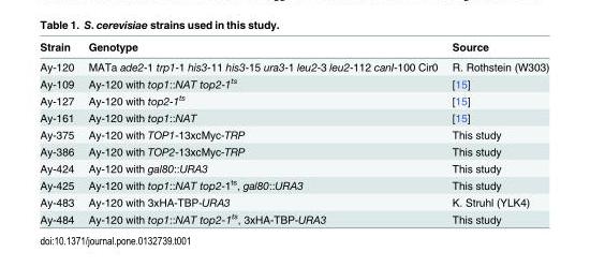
<table><thead><tr><td>Strain</td><td>Genotype</td><td>Source</td></tr></thead><tbody><tr><td>Ay-120</td><td>MATa ade2-1 trp1-1 his3-11 his3-15 ura3-1 leu2-3 leu2-112 canI-100 Cir0</td><td>R. Rothstein (W303)</td></tr><tr><td>Ay-109</td><td>Ay-120 with top1::NAT top2-1<sup>ts</sup></td><td>[15]</td></tr><tr><td>Ay-127</td><td>Ay-120 with top2-1<sup>ts</sup></td><td>[15]</td></tr><tr><td>Ay-161</td><td>Ay-120 with top1::NAT</td><td>[15]</td></tr><tr><td>Ay-375</td><td>Ay-120 with TOP1-13xcMyc-TRP</td><td>This study</td></tr><tr><td>Ay-386</td><td>Ay-120 with TOP2-13xcMyc-TRP</td><td>This study</td></tr><tr><td>Ay-424</td><td>Ay-120 with gal80::URA3</td><td>This study</td></tr><tr><td>Ay-425</td><td>Ay-120 with top1::NAT top2-1<sup>ts</sup>, gal80::URA3</td><td>This study</td></tr><tr><td>Ay-483</td><td>Ay-120 with 3xHA-TBP-URA3</td><td>K. Struhl (YLK4)</td></tr><tr><td>Ay-484</td><td>Ay-120 with top1::NAT top2-1<sup>ts</sup>, 3xHA-TBP-URA3</td><td>This study</td></tr></tbody></table>